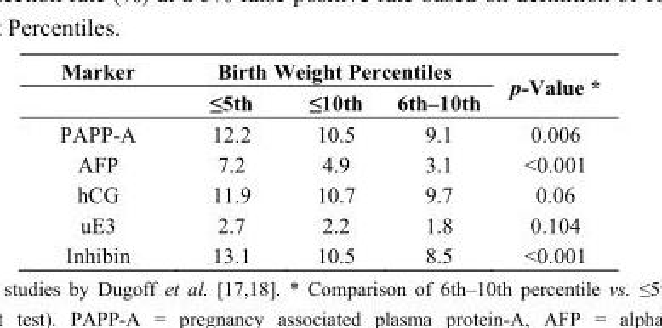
<table><thead><tr><td rowspan="2">Marker</td><td colspan="3">Birth Weight Percentiles</td><td rowspan="2">p-Value *</td></tr><tr><td>≤5th</td><td>≤10th</td><td>6th–10th</td></tr></thead><tbody><tr><td>PAPP-A</td><td>12.2</td><td>10.5</td><td>9.1</td><td>0.006</td></tr><tr><td>AFP</td><td>7.2</td><td>4.9</td><td>3.1</td><td>&lt;0.001</td></tr><tr><td>hCG</td><td>11.9</td><td>10.7</td><td>9.7</td><td>0.06</td></tr><tr><td>uE3</td><td>2.7</td><td>2.2</td><td>1.8</td><td>0.104</td></tr><tr><td>Inhibin</td><td>13.1</td><td>10.5</td><td>8.5</td><td>&lt;0.001</td></tr></tbody></table>